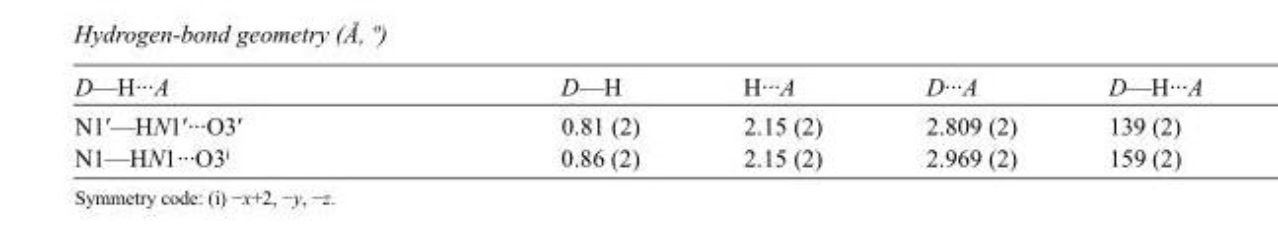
<table><tbody><tr><td>D—H···A</td><td>D—H</td><td>H···A</td><td>D···A</td><td>D—H···A</td></tr><tr><td>N1′—HN1′···O3′</td><td>0.81 (2)</td><td>2.15 (2)</td><td>2.809 (2)</td><td>139 (2)</td></tr><tr><td>N1—HN1···O3<sup>i</sup></td><td>0.86 (2)</td><td>2.15 (2)</td><td>2.969 (2)</td><td>159 (2)</td></tr></tbody></table>